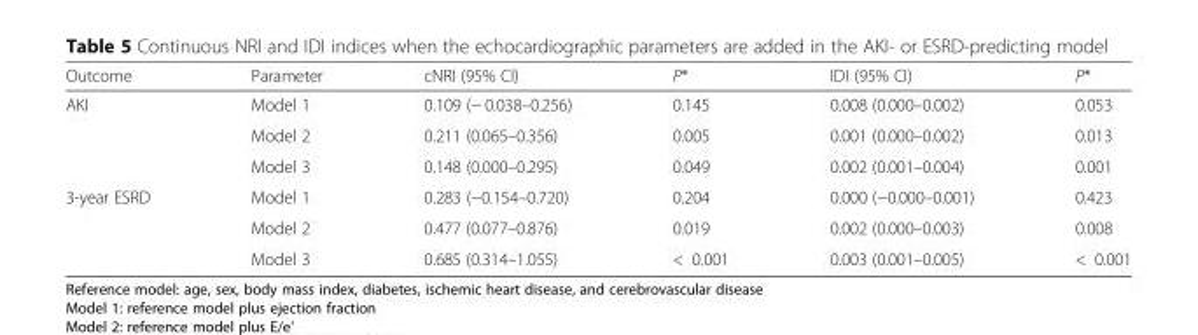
<table><thead><tr><td>Outcome</td><td>Parameter</td><td>cNRI (95% CI)</td><td>P*</td><td>IDI (95% CI)</td><td>P*</td></tr></thead><tbody><tr><td rowspan="3">AKI</td><td>Model 1</td><td>0.109 (− 0.038–0.256)</td><td>0.145</td><td>0.008 (0.000–0.002)</td><td>0.053</td></tr><tr><td>Model 2</td><td>0.211 (0.065–0.356)</td><td>0.005</td><td>0.001 (0.000–0.002)</td><td>0.013</td></tr><tr><td>Model 3</td><td>0.148 (0.000–0.295)</td><td>0.049</td><td>0.002 (0.001–0.004)</td><td>0.001</td></tr><tr><td rowspan="3">3-year ESRD</td><td>Model 1</td><td>0.283 (−0.154–0.720)</td><td>0.204</td><td>0.000 (−0.000–0.001)</td><td>0.423</td></tr><tr><td>Model 2</td><td>0.477 (0.077–0.876)</td><td>0.019</td><td>0.002 (0.000–0.003)</td><td>0.008</td></tr><tr><td>Model 3</td><td>0.685 (0.314–1.055)</td><td>&lt; 0.001</td><td>0.003 (0.001–0.005)</td><td>&lt; 0.001</td></tr></tbody></table>